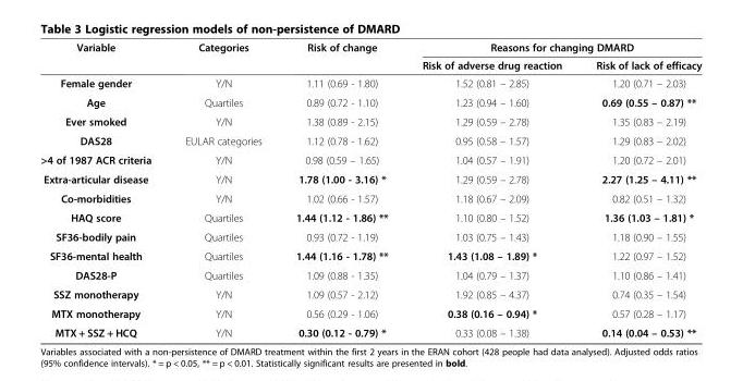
<table><thead><tr><td rowspan="2">Variable</td><td rowspan="2">Categories</td><td rowspan="2">Risk of change</td><td colspan="2">Reasons for changing DMARD</td></tr><tr><td>Risk of adverse drug reaction</td><td>Risk of lack of efficacy</td></tr></thead><tbody><tr><td>Female gender</td><td>Y/N</td><td>1.11 (0.69 - 1.80)</td><td>1.52 (0.81 – 2.85)</td><td>1.20 (0.71 – 2.03)</td></tr><tr><td>Age</td><td>Quartiles</td><td>0.89 (0.72 - 1.10)</td><td>1.23 (0.94 – 1.60)</td><td>0.69 (0.55 – 0.87) **</td></tr><tr><td>Ever smoked</td><td>Y/N</td><td>1.38 (0.89 - 2.15)</td><td>1.29 (0.59 – 2.78)</td><td>1.35 (0.83 – 2.19)</td></tr><tr><td>DAS28</td><td>EULAR categories</td><td>1.12 (0.78 - 1.62)</td><td>0.95 (0.58 – 1.57)</td><td>1.29 (0.83 – 2.02)</td></tr><tr><td>&gt;4 of 1987 ACR criteria</td><td>Y/N</td><td>0.98 (0.59 – 1.65)</td><td>1.04 (0.57 – 1.91)</td><td>1.20 (0.72 – 2.01)</td></tr><tr><td>Extra-articular disease</td><td>Y/N</td><td>1.78 (1.00 - 3.16) *</td><td>1.29 (0.59 – 2.78)</td><td>2.27 (1.25 – 4.11) **</td></tr><tr><td>Co-morbidities</td><td>Y/N</td><td>1.02 (0.66 - 1.57)</td><td>1.18 (0.67 – 2.09)</td><td>0.82 (0.51 – 1.32)</td></tr><tr><td>HAQ score</td><td>Quartiles</td><td>1.44 (1.12 - 1.86) **</td><td>1.10 (0.80 – 1.52)</td><td>1.36 (1.03 – 1.81) *</td></tr><tr><td>SF36-bodily pain</td><td>Quartiles</td><td>0.93 (0.72 - 1.19)</td><td>1.03 (0.75 – 1.43)</td><td>1.18 (0.90 – 1.55)</td></tr><tr><td>SF36-mental health</td><td>Quartiles</td><td>1.44 (1.16 - 1.78) **</td><td>1.43 (1.08 – 1.89) *</td><td>1.22 (0.97 – 1.52)</td></tr><tr><td>DAS28-P</td><td>Quartiles</td><td>1.09 (0.88 - 1.35)</td><td>1.04 (0.79 – 1.37)</td><td>1.10 (0.86 – 1.41)</td></tr><tr><td>SSZ monotherapy</td><td>Y/N</td><td>1.09 (0.57 - 2.12)</td><td>1.92 (0.85 – 4.37)</td><td>0.74 (0.35 – 1.54)</td></tr><tr><td>MTX monotherapy</td><td>Y/N</td><td>0.56 (0.29 - 1.06)</td><td>0.38 (0.16 – 0.94) *</td><td>0.57 (0.28 – 1.17)</td></tr><tr><td>MTX + SSZ + HCQ</td><td>Y/N</td><td>0.30 (0.12 - 0.79) *</td><td>0.33 (0.08 – 1.38)</td><td>0.14 (0.04 – 0.53) **</td></tr></tbody></table>